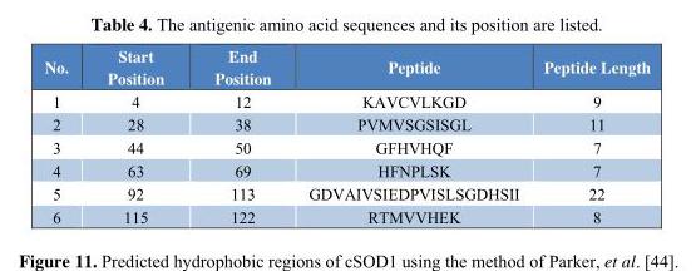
<table><thead><tr><td>No.</td><td>Start Position</td><td>End Position</td><td>Peptide</td><td>Peptide Length</td></tr></thead><tbody><tr><td>1</td><td>4</td><td>12</td><td>KAVCVLKGD</td><td>9</td></tr><tr><td>2</td><td>28</td><td>38</td><td>PVMVSGSISGL</td><td>11</td></tr><tr><td>3</td><td>44</td><td>50</td><td>GFHVHQF</td><td>7</td></tr><tr><td>4</td><td>63</td><td>69</td><td>HFNPLSK</td><td>7</td></tr><tr><td>5</td><td>92</td><td>113</td><td>GDVAIVSIEDPVISLSGDHSII</td><td>22</td></tr><tr><td>6</td><td>115</td><td>122</td><td>RTMVVHEK</td><td>8</td></tr></tbody></table>